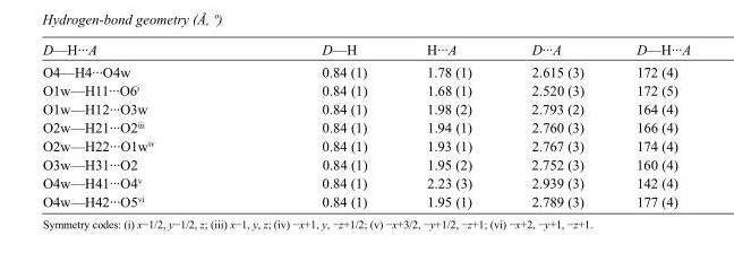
<table><tbody><tr><td>D—H···A</td><td>D—H</td><td>H···A</td><td>D···A</td><td>D—H···A</td></tr><tr><td>O4—H4···O4w</td><td>0.84 (1)</td><td>1.78 (1)</td><td>2.615 (3)</td><td>172 (4)</td></tr><tr><td>O1w—H11···O6<sup>i</sup></td><td>0.84 (1)</td><td>1.68 (1)</td><td>2.520 (3)</td><td>172 (5)</td></tr><tr><td>O1w—H12···O3w</td><td>0.84 (1)</td><td>1.98 (2)</td><td>2.793 (2)</td><td>164 (4)</td></tr><tr><td>O2w—H21···O2<sup>iii</sup></td><td>0.84 (1)</td><td>1.94 (1)</td><td>2.760 (3)</td><td>166 (4)</td></tr><tr><td>O2w—H22···O1w<sup>iv</sup></td><td>0.84 (1)</td><td>1.93 (1)</td><td>2.767 (3)</td><td>174 (4)</td></tr><tr><td>O3w—H31···O2</td><td>0.84 (1)</td><td>1.95 (2)</td><td>2.752 (3)</td><td>160 (4)</td></tr><tr><td>O4w—H41···O4<sup>v</sup></td><td>0.84 (1)</td><td>2.23 (3)</td><td>2.939 (3)</td><td>142 (4)</td></tr><tr><td>O4w—H42···O5<sup>vi</sup></td><td>0.84 (1)</td><td>1.95 (1)</td><td>2.789 (3)</td><td>177 (4)</td></tr></tbody></table>